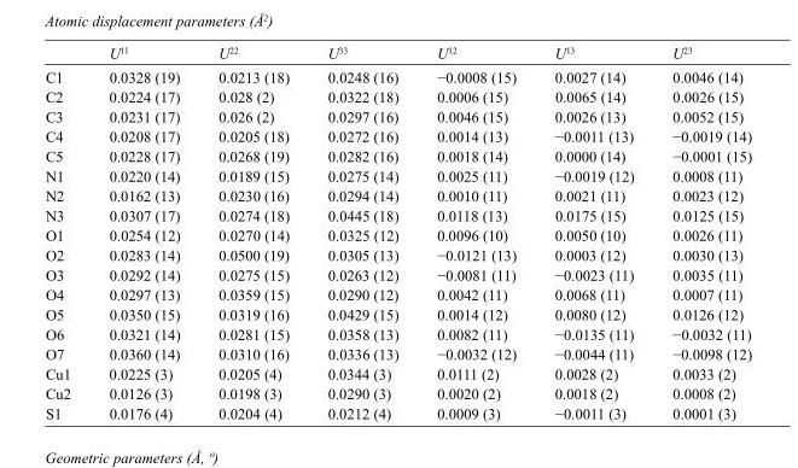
<table><thead><tr><td></td><td>U<sup>11</sup></td><td>U<sup>22</sup></td><td>U<sup>33</sup></td><td>U<sup>12</sup></td><td>U<sup>13</sup></td><td>U<sup>23</sup></td></tr></thead><tbody><tr><td>C1</td><td>0.0328 (19)</td><td>0.0213 (18)</td><td>0.0248 (16)</td><td>−0.0008 (15)</td><td>0.0027 (14)</td><td>0.0046 (14)</td></tr><tr><td>C2</td><td>0.0224 (17)</td><td>0.028 (2)</td><td>0.0322 (18)</td><td>0.0006 (15)</td><td>0.0065 (14)</td><td>0.0026 (15)</td></tr><tr><td>C3</td><td>0.0231 (17)</td><td>0.026 (2)</td><td>0.0297 (16)</td><td>0.0046 (15)</td><td>0.0026 (13)</td><td>0.0052 (15)</td></tr><tr><td>C4</td><td>0.0208 (17)</td><td>0.0205 (18)</td><td>0.0272 (16)</td><td>0.0014 (13)</td><td>−0.0011 (13)</td><td>−0.0019 (14)</td></tr><tr><td>C5</td><td>0.0228 (17)</td><td>0.0268 (19)</td><td>0.0282 (16)</td><td>0.0018 (14)</td><td>0.0000 (14)</td><td>−0.0001 (15)</td></tr><tr><td>N1</td><td>0.0220 (14)</td><td>0.0189 (15)</td><td>0.0275 (14)</td><td>0.0025 (11)</td><td>−0.0019 (12)</td><td>0.0008 (11)</td></tr><tr><td>N2</td><td>0.0162 (13)</td><td>0.0230 (16)</td><td>0.0294 (14)</td><td>0.0010 (11)</td><td>0.0021 (11)</td><td>0.0023 (12)</td></tr><tr><td>N3</td><td>0.0307 (17)</td><td>0.0274 (18)</td><td>0.0445 (18)</td><td>0.0118 (13)</td><td>0.0175 (15)</td><td>0.0125 (15)</td></tr><tr><td>O1</td><td>0.0254 (12)</td><td>0.0270 (14)</td><td>0.0325 (12)</td><td>0.0096 (10)</td><td>0.0050 (10)</td><td>0.0026 (11)</td></tr><tr><td>O2</td><td>0.0283 (14)</td><td>0.0500 (19)</td><td>0.0305 (13)</td><td>−0.0121 (13)</td><td>0.0003 (12)</td><td>0.0030 (13)</td></tr><tr><td>O3</td><td>0.0292 (14)</td><td>0.0275 (15)</td><td>0.0263 (12)</td><td>−0.0081 (11)</td><td>−0.0023 (11)</td><td>0.0035 (11)</td></tr><tr><td>O4</td><td>0.0297 (13)</td><td>0.0359 (15)</td><td>0.0290 (12)</td><td>0.0042 (11)</td><td>0.0068 (11)</td><td>0.0007 (11)</td></tr><tr><td>O5</td><td>0.0350 (15)</td><td>0.0319 (16)</td><td>0.0429 (15)</td><td>0.0014 (12)</td><td>0.0080 (12)</td><td>0.0126 (12)</td></tr><tr><td>O6</td><td>0.0321 (14)</td><td>0.0281 (15)</td><td>0.0358 (13)</td><td>0.0082 (11)</td><td>−0.0135 (11)</td><td>−0.0032 (11)</td></tr><tr><td>O7</td><td>0.0360 (14)</td><td>0.0310 (16)</td><td>0.0336 (13)</td><td>−0.0032 (12)</td><td>−0.0044 (11)</td><td>−0.0098 (12)</td></tr><tr><td>Cu1</td><td>0.0225 (3)</td><td>0.0205 (4)</td><td>0.0344 (3)</td><td>0.0111 (2)</td><td>0.0028 (2)</td><td>0.0033 (2)</td></tr><tr><td>Cu2</td><td>0.0126 (3)</td><td>0.0198 (3)</td><td>0.0290 (3)</td><td>0.0020 (2)</td><td>0.0018 (2)</td><td>0.0008 (2)</td></tr><tr><td>S1</td><td>0.0176 (4)</td><td>0.0204 (4)</td><td>0.0212 (4)</td><td>0.0009 (3)</td><td>−0.0011 (3)</td><td>0.0001 (3)</td></tr></tbody></table>